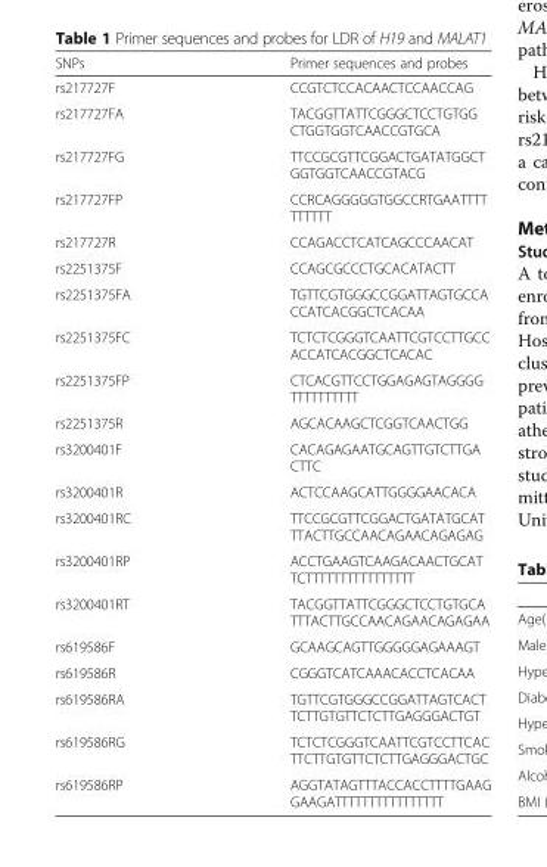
<table><thead><tr><td>SNPs</td><td>Primer sequences and probes</td></tr></thead><tbody><tr><td>rs217727F</td><td>CCGTCTCCACAACTCCAACCAG</td></tr><tr><td>rs217727FA</td><td>TACGGTTATTCGGGCTCCTGTGG CTGGTGGTCAACCGTGCA</td></tr><tr><td>rs217727FG</td><td>TTCCGCGTTCGGACTGATATGGCT GGTGGTCAACCGTACG</td></tr><tr><td>rs217727FP</td><td>CCRCAGGGGGTGGCCRTGAATTTT TTTTTT</td></tr><tr><td>rs217727R</td><td>CCAGACCTCATCAGCCCAACAT</td></tr><tr><td>rs2251375F</td><td>CCAGCGCCCTGCACATACTT</td></tr><tr><td>rs2251375FA</td><td>TGTTCGTGGGCCGGATTAGTGCCA CCATCACGGCTCACAA</td></tr><tr><td>rs2251375FC</td><td>TCTCTCGGGTCAATTCGTCCTTGCC ACCATCACGGCTCACAC</td></tr><tr><td>rs2251375FP</td><td>CTCACGTTCCTGGAGAGTAGGGG TTTTTTTTTT</td></tr><tr><td>rs2251375R</td><td>AGCACAAGCTCGGTCAACTGG</td></tr><tr><td>rs3200401F</td><td>CACAGAGAATGCAGTTGTCTTGA CTTC</td></tr><tr><td>rs3200401R</td><td>ACTCCAAGCATTGGGGAACACA</td></tr><tr><td>rs3200401RC</td><td>TTCCGCGTTCGGACTGATATGCAT TTACTTGCCAACAGAACAGAGAG</td></tr><tr><td>rs3200401RP</td><td>ACCTGAAGTCAAGACAACTGCAT TCTTTTTTTTTTTTTTTT</td></tr><tr><td>rs3200401RT</td><td>TACGGTTATTCGGGCTCCTGTGCA TTTACTTGCCAACAGAACAGAGAA</td></tr><tr><td>rs619586F</td><td>GCAAGCAGTTGGGGGAGAAAGT</td></tr><tr><td>rs619586R</td><td>CGGGTCATCAAACACCTCACAA</td></tr><tr><td>rs619586RA</td><td>TGTTCGTGGGCCGGATTAGTCACT TCTTGTGTTCTCTTGAGGGACTGT</td></tr><tr><td>rs619586RG</td><td>TCTCTCGGGTCAATTCGTCCTTCAC TTCTTGTGTTCTCTTGAGGGACTGC</td></tr><tr><td>rs619586RP</td><td>AGGTATAGTTTACCACCTTTTGAAG GAAGATTTTTTTTTTTTTTTT</td></tr></tbody></table>